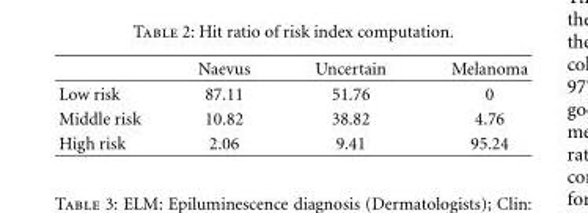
<table><thead><tr><td></td><td>Naevus</td><td>Uncertain</td><td>Melanoma</td></tr></thead><tbody><tr><td>Low risk</td><td>87.11</td><td>51.76</td><td>0</td></tr><tr><td>Middle risk</td><td>10.82</td><td>38.82</td><td>4.76</td></tr><tr><td>High risk</td><td>2.06</td><td>9.41</td><td>95.24</td></tr></tbody></table>